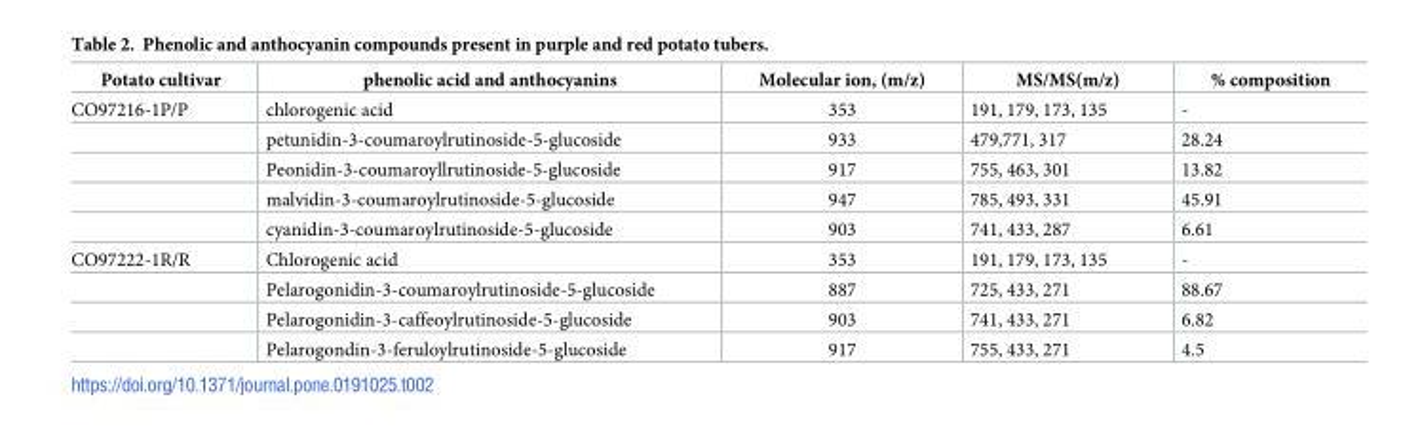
<table><thead><tr><td>Potato cultivar</td><td>phenolic acid and anthocyanins</td><td>Molecular ion, (m/z)</td><td>MS/MS(m/z)</td><td>% composition</td></tr></thead><tbody><tr><td rowspan="5">CO97216-1P/P</td><td>chlorogenic acid</td><td>353</td><td>191, 179, 173, 135</td><td>-</td></tr><tr><td>petunidin-3-coumaroylrutinoside-5-glucoside</td><td>933</td><td>479,771, 317</td><td>28.24</td></tr><tr><td>Peonidin-3-coumaroyllrutinoside-5-glucoside</td><td>917</td><td>755, 463, 301</td><td>13.82</td></tr><tr><td>malvidin-3-coumaroylrutinoside-5-glucoside</td><td>947</td><td>785, 493, 331</td><td>45.91</td></tr><tr><td>cyanidin-3-coumaroylrutinoside-5-glucoside</td><td>903</td><td>741, 433, 287</td><td>6.61</td></tr><tr><td rowspan="4">CO97222-1R/R</td><td>Chlorogenic acid</td><td>353</td><td>191, 179, 173, 135</td><td>-</td></tr><tr><td>Pelarogonidin-3-coumaroylrutinoside-5-glucoside</td><td>887</td><td>725, 433, 271</td><td>88.67</td></tr><tr><td>Pelarogonidin-3-caffeoylrutinoside-5-glucoside</td><td>903</td><td>741, 433, 271</td><td>6.82</td></tr><tr><td>Pelarogondin-3-feruloylrutinoside-5-glucoside</td><td>917</td><td>755, 433, 271</td><td>4.5</td></tr></tbody></table>